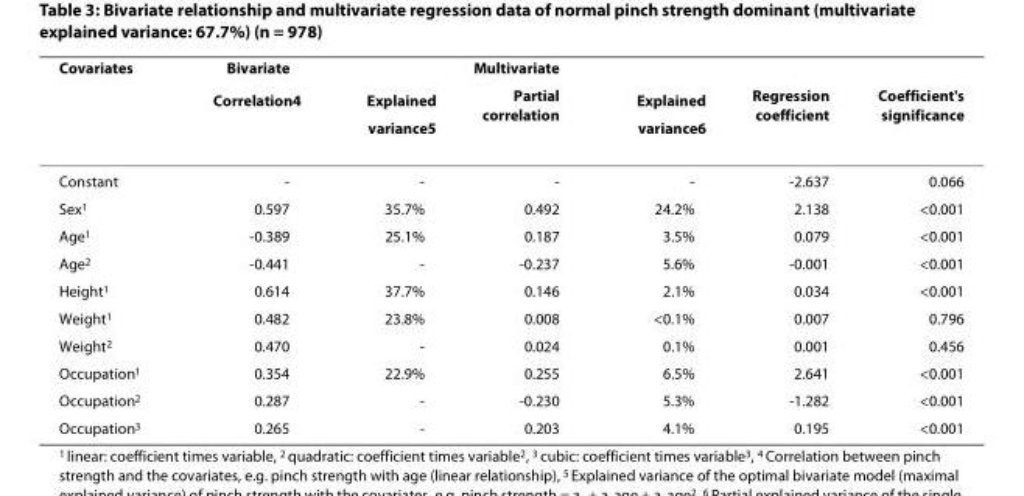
<table><thead><tr><td rowspan="2">Covariates</td><td rowspan="2">Bivariate Correlation<sup>4</sup></td><td rowspan="2">Explained variance<sup>5</sup></td><td rowspan="2">Multivariate Partial correlation</td><td rowspan="2">Explained variance<sup>6</sup></td><td rowspan="2">Regression coefficient</td><td rowspan="2">Coefficient&#x27;s significance</td></tr><tr></tr></thead><tbody><tr><td>Constant</td><td>-</td><td>-</td><td>-</td><td>-</td><td>-2.637</td><td>0.066</td></tr><tr><td>Sex<sup>1</sup></td><td>0.597</td><td>35.7%</td><td>0.492</td><td>24.2%</td><td>2.138</td><td>&lt;0.001</td></tr><tr><td>Age<sup>1</sup></td><td>-0.389</td><td>25.1%</td><td>0.187</td><td>3.5%</td><td>0.079</td><td>&lt;0.001</td></tr><tr><td>Age<sup>2</sup></td><td>-0.441</td><td>-</td><td>-0.237</td><td>5.6%</td><td>-0.001</td><td>&lt;0.001</td></tr><tr><td>Height<sup>1</sup></td><td>0.614</td><td>37.7%</td><td>0.146</td><td>2.1%</td><td>0.034</td><td>&lt;0.001</td></tr><tr><td>Weight<sup>1</sup></td><td>0.482</td><td>23.8%</td><td>0.008</td><td>&lt;0.1%</td><td>0.007</td><td>0.796</td></tr><tr><td>Weight<sup>2</sup></td><td>0.470</td><td>-</td><td>0.024</td><td>0.1%</td><td>0.001</td><td>0.456</td></tr><tr><td>Occupation<sup>1</sup></td><td>0.354</td><td>22.9%</td><td>0.255</td><td>6.5%</td><td>2.641</td><td>&lt;0.001</td></tr><tr><td>Occupation<sup>2</sup></td><td>0.287</td><td>-</td><td>-0.230</td><td>5.3%</td><td>-1.282</td><td>&lt;0.001</td></tr><tr><td>Occupation<sup>3</sup></td><td>0.265</td><td>-</td><td>0.203</td><td>4.1%</td><td>0.195</td><td>&lt;0.001</td></tr></tbody></table>